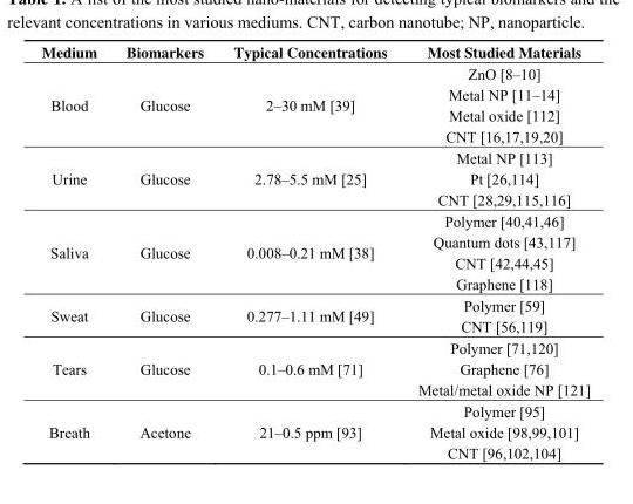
<table><thead><tr><td>Medium</td><td>Biomarkers</td><td>Typical Concentrations</td><td>Most Studied Materials</td></tr></thead><tbody><tr><td>Blood</td><td>Glucose</td><td>2–30 mM [39]</td><td>ZnO [8–10] Metal NP [11–14] Metal oxide [112] CNT [16,17,19,20]</td></tr><tr><td>Urine</td><td>Glucose</td><td>2.78–5.5 mM [25]</td><td>Metal NP [113] Pt [26,114] CNT [28,29,115,116]</td></tr><tr><td>Saliva</td><td>Glucose</td><td>0.008–0.21 mM [38]</td><td>Polymer [40,41,46] Quantum dots [43,117] CNT [42,44,45] Graphene [118]</td></tr><tr><td>Sweat</td><td>Glucose</td><td>0.277–1.11 mM [49]</td><td>Polymer [59] CNT [56,119]</td></tr><tr><td>Tears</td><td>Glucose</td><td>0.1–0.6 mM [71]</td><td>Polymer [71,120] Graphene [76] Metal/metal oxide NP [121]</td></tr><tr><td>Breath</td><td>Acetone</td><td>21–0.5 ppm [93]</td><td>Polymer [95] Metal oxide [98,99,101] CNT [96,102,104]</td></tr></tbody></table>